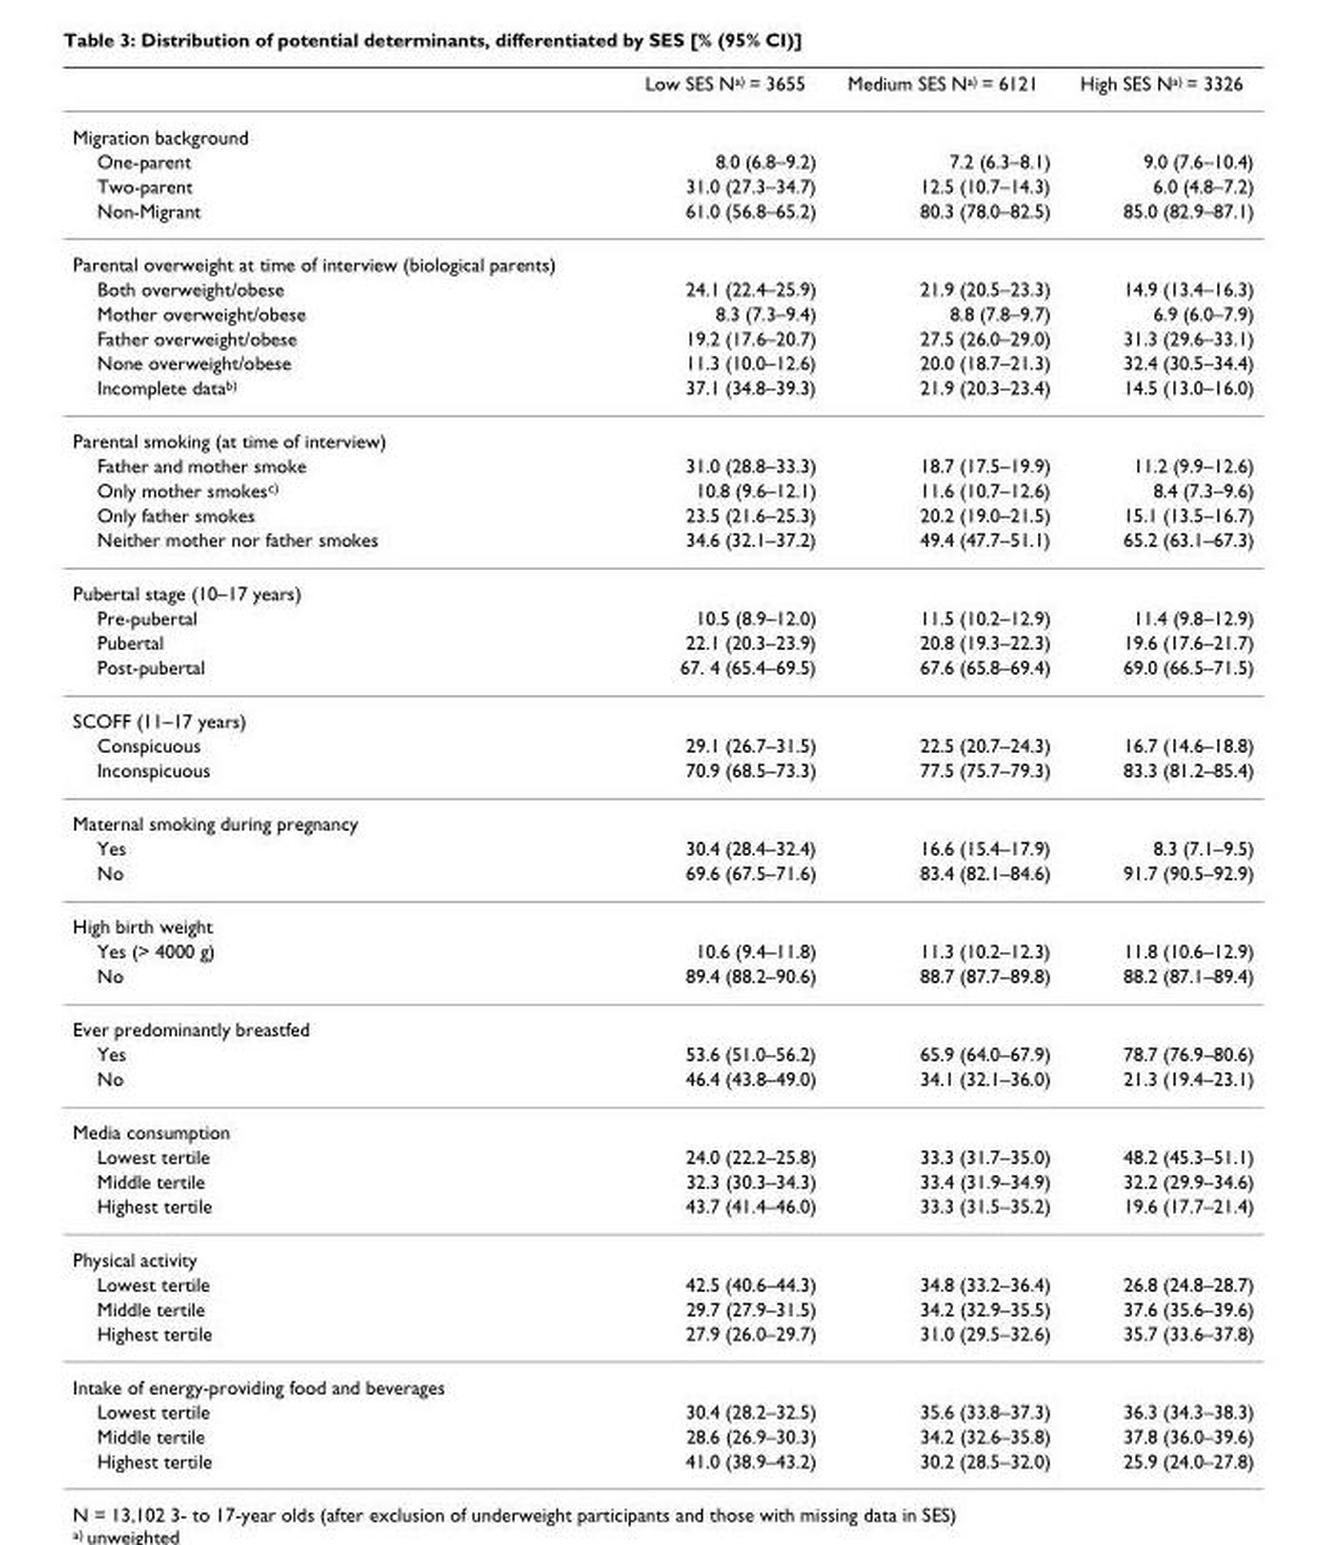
<table><thead><tr><td></td><td>Low SES N<sup>a)</sup> = 3655</td><td>Medium SES N<sup>a)</sup> = 6121</td><td>High SES N<sup>a)</sup> = 3326</td></tr></thead><tbody><tr><td colspan="4">Migration background</td></tr><tr><td>One-parent</td><td>8.0 (6.8–9.2)</td><td>7.2 (6.3–8.1)</td><td>9.0 (7.6–10.4)</td></tr><tr><td>Two-parent</td><td>31.0 (27.3–34.7)</td><td>12.5 (10.7–14.3)</td><td>6.0 (4.8–7.2)</td></tr><tr><td>Non-Migrant</td><td>61.0 (56.8–65.2)</td><td>80.3 (78.0–82.5)</td><td>85.0 (82.9–87.1)</td></tr><tr><td colspan="4">Parental overweight at time of interview (biological parents)</td></tr><tr><td>Both overweight/obese</td><td>24.1 (22.4–25.9)</td><td>21.9 (20.5–23.3)</td><td>14.9 (13.4–16.3)</td></tr><tr><td>Mother overweight/obese</td><td>8.3 (7.3–9.4)</td><td>8.8 (7.8–9.7)</td><td>6.9 (6.0–7.9)</td></tr><tr><td>Father overweight/obese</td><td>19.2 (17.6–20.7)</td><td>27.5 (26.0–29.0)</td><td>31.3 (29.6–33.1)</td></tr><tr><td>None overweight/obese</td><td>11.3 (10.0–12.6)</td><td>20.0 (18.7–21.3)</td><td>32.4 (30.5–34.4)</td></tr><tr><td>Incomplete data<sup>b)</sup></td><td>37.1 (34.8–39.3)</td><td>21.9 (20.3–23.4)</td><td>14.5 (13.0–16.0)</td></tr><tr><td colspan="4">Parental smoking (at time of interview)</td></tr><tr><td>Father and mother smoke</td><td>31.0 (28.8–33.3)</td><td>18.7 (17.5–19.9)</td><td>11.2 (9.9–12.6)</td></tr><tr><td>Only mother smokes<sup>c)</sup></td><td>10.8 (9.6–12.1)</td><td>11.6 (10.7–12.6)</td><td>8.4 (7.3–9.6)</td></tr><tr><td>Only father smokes</td><td>23.5 (21.6–25.3)</td><td>20.2 (19.0–21.5)</td><td>15.1 (13.5–16.7)</td></tr><tr><td>Neither mother nor father smokes</td><td>34.6 (32.1–37.2)</td><td>49.4 (47.7–51.1)</td><td>65.2 (63.1–67.3)</td></tr><tr><td colspan="4">Pubertal stage (10–17 years)</td></tr><tr><td>Pre-pubertal</td><td>10.5 (8.9–12.0)</td><td>11.5 (10.2–12.9)</td><td>11.4 (9.8–12.9)</td></tr><tr><td>Pubertal</td><td>22.1 (20.3–23.9)</td><td>20.8 (19.3–22.3)</td><td>19.6 (17.6–21.7)</td></tr><tr><td>Post-pubertal</td><td>67. 4 (65.4–69.5)</td><td>67.6 (65.8–69.4)</td><td>69.0 (66.5–71.5)</td></tr><tr><td colspan="4">SCOFF (11–17 years)</td></tr><tr><td>Conspicuous</td><td>29.1 (26.7–31.5)</td><td>22.5 (20.7–24.3)</td><td>16.7 (14.6–18.8)</td></tr><tr><td>Inconspicuous</td><td>70.9 (68.5–73.3)</td><td>77.5 (75.7–79.3)</td><td>83.3 (81.2–85.4)</td></tr><tr><td colspan="4">Maternal smoking during pregnancy</td></tr><tr><td>Yes</td><td>30.4 (28.4–32.4)</td><td>16.6 (15.4–17.9)</td><td>8.3 (7.1–9.5)</td></tr><tr><td>No</td><td>69.6 (67.5–71.6)</td><td>83.4 (82.1–84.6)</td><td>91.7 (90.5–92.9)</td></tr><tr><td colspan="4">High birth weight</td></tr><tr><td>Yes (&gt; 4000 g)</td><td>10.6 (9.4–11.8)</td><td>11.3 (10.2–12.3)</td><td>11.8 (10.6–12.9)</td></tr><tr><td>No</td><td>89.4 (88.2–90.6)</td><td>88.7 (87.7–89.8)</td><td>88.2 (87.1–89.4)</td></tr><tr><td colspan="4">Ever predominantly breastfed</td></tr><tr><td>Yes</td><td>53.6 (51.0–56.2)</td><td>65.9 (64.0–67.9)</td><td>78.7 (76.9–80.6)</td></tr><tr><td>No</td><td>46.4 (43.8–49.0)</td><td>34.1 (32.1–36.0)</td><td>21.3 (19.4–23.1)</td></tr><tr><td colspan="4">Media consumption</td></tr><tr><td>Lowest tertile</td><td>24.0 (22.2–25.8)</td><td>33.3 (31.7–35.0)</td><td>48.2 (45.3–51.1)</td></tr><tr><td>Middle tertile</td><td>32.3 (30.3–34.3)</td><td>33.4 (31.9–34.9)</td><td>32.2 (29.9–34.6)</td></tr><tr><td>Highest tertile</td><td>43.7 (41.4–46.0)</td><td>33.3 (31.5–35.2)</td><td>19.6 (17.7–21.4)</td></tr><tr><td colspan="4">Physical activity</td></tr><tr><td>Lowest tertile</td><td>42.5 (40.6–44.3)</td><td>34.8 (33.2–36.4)</td><td>26.8 (24.8–28.7)</td></tr><tr><td>Middle tertile</td><td>29.7 (27.9–31.5)</td><td>34.2 (32.9–35.5)</td><td>37.6 (35.6–39.6)</td></tr><tr><td>Highest tertile</td><td>27.9 (26.0–29.7)</td><td>31.0 (29.5–32.6)</td><td>35.7 (33.6–37.8)</td></tr><tr><td colspan="4">Intake of energy-providing food and beverages</td></tr><tr><td>Lowest tertile</td><td>30.4 (28.2–32.5)</td><td>35.6 (33.8–37.3)</td><td>36.3 (34.3–38.3)</td></tr><tr><td>Middle tertile</td><td>28.6 (26.9–30.3)</td><td>34.2 (32.6–35.8)</td><td>37.8 (36.0–39.6)</td></tr><tr><td>Highest tertile</td><td>41.0 (38.9–43.2)</td><td>30.2 (28.5–32.0)</td><td>25.9 (24.0–27.8)</td></tr></tbody></table>